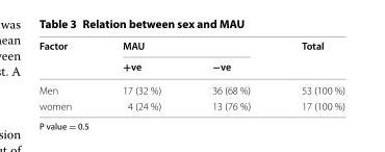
<table><thead><tr><td rowspan="2">Factor</td><td colspan="2">MAU</td><td rowspan="2">Total</td></tr><tr><td>+ve</td><td>−ve</td></tr></thead><tbody><tr><td>Men</td><td>17 (32 %)</td><td>36 (68 %)</td><td>53 (100 %)</td></tr><tr><td>women</td><td>4 (24 %)</td><td>13 (76 %)</td><td>17 (100 %)</td></tr></tbody></table>